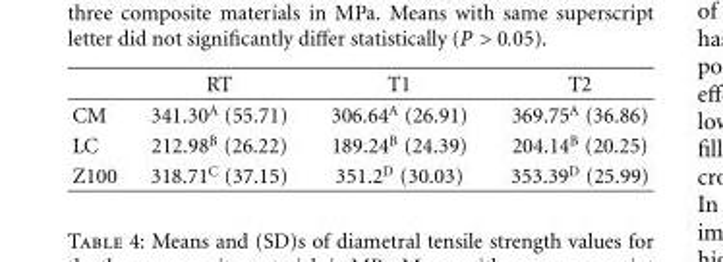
<table><thead><tr><td></td><td>RT</td><td>T1</td><td>T2</td></tr></thead><tbody><tr><td>CM</td><td>341.30<sup>A</sup> (55.71)</td><td>306.64<sup>A</sup> (26.91)</td><td>369.75<sup>A</sup> (36.86)</td></tr><tr><td>LC</td><td>212.98<sup>B</sup> (26.22)</td><td>189.24<sup>B</sup> (24.39)</td><td>204.14<sup>B</sup> (20.25)</td></tr><tr><td>Z100</td><td>318.71<sup>C</sup> (37.15)</td><td>351.2<sup>D</sup> (30.03)</td><td>353.39<sup>D</sup> (25.99)</td></tr></tbody></table>